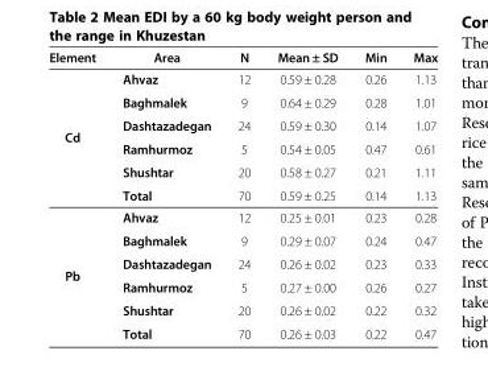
<table><thead><tr><td>Element</td><td>Area</td><td>N</td><td>Mean ± SD</td><td>Min</td><td>Max</td></tr></thead><tbody><tr><td rowspan="6">Cd</td><td>Ahvaz</td><td>12</td><td>0.59 ± 0.28</td><td>0.26</td><td>1.13</td></tr><tr><td>Baghmalek</td><td>9</td><td>0.64 ± 0.29</td><td>0.28</td><td>1.01</td></tr><tr><td>Dashtazadegan</td><td>24</td><td>0.59 ± 0.30</td><td>0.14</td><td>1.07</td></tr><tr><td>Ramhurmoz</td><td>5</td><td>0.54 ± 0.05</td><td>0.47</td><td>0.61</td></tr><tr><td>Shushtar</td><td>20</td><td>0.58 ± 0.27</td><td>0.21</td><td>1.11</td></tr><tr><td>Total</td><td>70</td><td>0.59 ± 0.25</td><td>0.14</td><td>1.13</td></tr><tr><td rowspan="6">Pb</td><td>Ahvaz</td><td>12</td><td>0.25 ± 0.01</td><td>0.23</td><td>0.28</td></tr><tr><td>Baghmalek</td><td>9</td><td>0.29 ± 0.07</td><td>0.24</td><td>0.47</td></tr><tr><td>Dashtazadegan</td><td>24</td><td>0.26 ± 0.02</td><td>0.23</td><td>0.33</td></tr><tr><td>Ramhurmoz</td><td>5</td><td>0.27 ± 0.00</td><td>0.26</td><td>0.27</td></tr><tr><td>Shushtar</td><td>20</td><td>0.26 ± 0.02</td><td>0.22</td><td>0.32</td></tr><tr><td>Total</td><td>70</td><td>0.26 ± 0.03</td><td>0.22</td><td>0.47</td></tr></tbody></table>